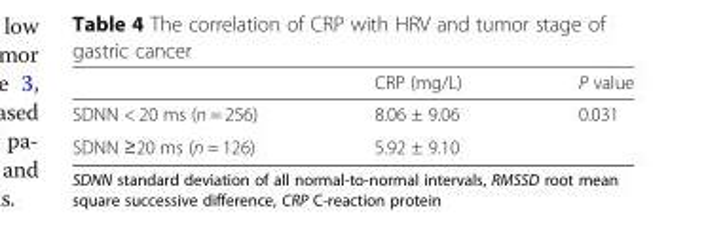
<table><thead><tr><td></td><td>CRP (mg/L)</td><td>P value</td></tr></thead><tbody><tr><td>SDNN &lt; 20 ms (n = 256)</td><td>8.06 ± 9.06</td><td>0.031</td></tr><tr><td>SDNN ≥20 ms (n = 126)</td><td>5.92 ± 9.10</td><td></td></tr></tbody></table>